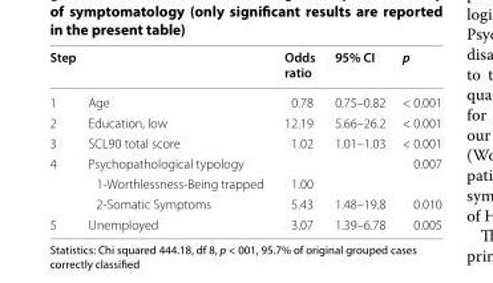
<table><thead><tr><td>Step</td><td></td><td>Odds ratio</td><td>95% CI</td><td>p</td></tr></thead><tbody><tr><td>1</td><td>Age</td><td>0.78</td><td>0.75–0.82</td><td>&lt; 0.001</td></tr><tr><td>2</td><td>Education, low</td><td>12.19</td><td>5.66–26.2</td><td>&lt; 0.001</td></tr><tr><td>3</td><td>SCL90 total score</td><td>1.02</td><td>1.01–1.03</td><td>&lt; 0.001</td></tr><tr><td rowspan="3">4</td><td>Psychopathological typology</td><td></td><td></td><td>0.007</td></tr><tr><td>1-Worthlessness-Being trapped</td><td>1.00</td><td></td><td></td></tr><tr><td>2-Somatic Symptoms</td><td>5.43</td><td>1.48–19.8</td><td>0.010</td></tr><tr><td>5</td><td>Unemployed</td><td>3.07</td><td>1.39–6.78</td><td>0.005</td></tr></tbody></table>